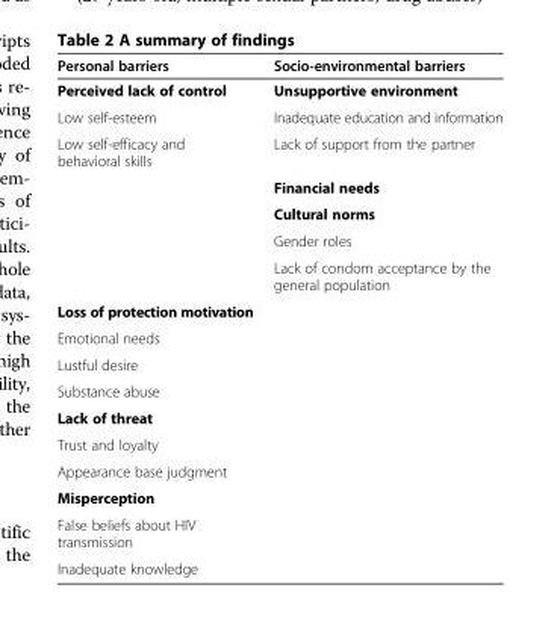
<table><thead><tr><td>Personal barriers</td><td>Socio-environmental barriers</td></tr></thead><tbody><tr><td>Perceived lack of control</td><td>Unsupportive environment</td></tr><tr><td>Low self-esteem</td><td>Inadequate education and information</td></tr><tr><td rowspan="5">Low self-efficacy and behavioral skills</td><td>Lack of support from the partner</td></tr><tr><td>Financial needs</td></tr><tr><td>Cultural norms</td></tr><tr><td>Gender roles</td></tr><tr><td>Lack of condom acceptance by the general population</td></tr><tr><td colspan="2">Loss of protection motivation</td></tr><tr><td colspan="2">Emotional needs</td></tr><tr><td colspan="2">Lustful desire</td></tr><tr><td colspan="2">Substance abuse</td></tr><tr><td colspan="2">Lack of threat</td></tr><tr><td colspan="2">Trust and loyalty</td></tr><tr><td colspan="2">Appearance base judgment</td></tr><tr><td colspan="2">Misperception</td></tr><tr><td colspan="2">False beliefs about HIV transmission</td></tr><tr><td>Inadequate knowledge</td><td></td></tr></tbody></table>